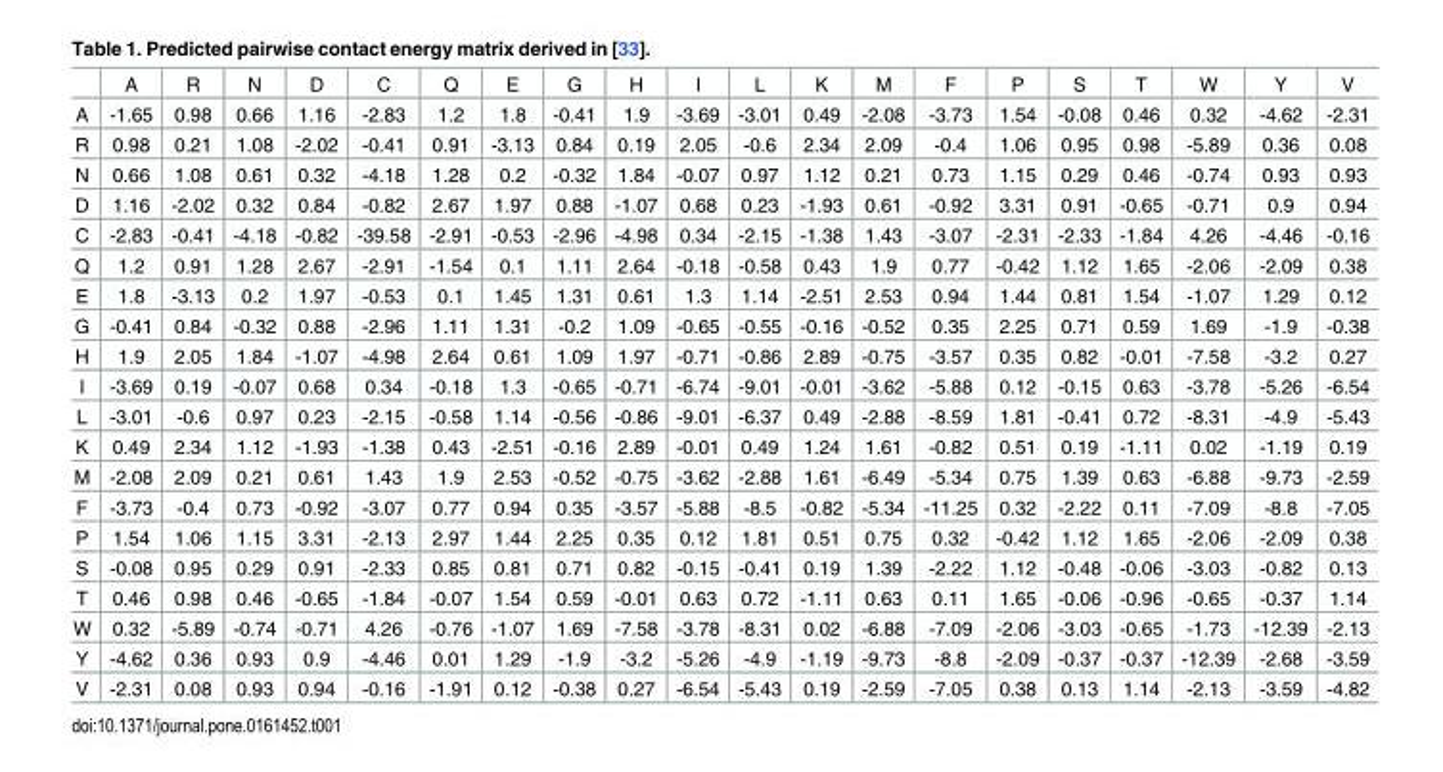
<table><thead><tr><td></td><td>A</td><td>R</td><td>N</td><td>D</td><td>C</td><td>Q</td><td>E</td><td>G</td><td>H</td><td>I</td><td>L</td><td>K</td><td>M</td><td>F</td><td>P</td><td>S</td><td>T</td><td>W</td><td>Y</td><td>V</td></tr></thead><tbody><tr><td>A</td><td>-1.65</td><td>0.98</td><td>0.66</td><td>1.16</td><td>-2.83</td><td>1.2</td><td>1.8</td><td>-0.41</td><td>1.9</td><td>-3.69</td><td>-3.01</td><td>0.49</td><td>-2.08</td><td>-3.73</td><td>1.54</td><td>-0.08</td><td>0.46</td><td>0.32</td><td>-4.62</td><td>-2.31</td></tr><tr><td>R</td><td>0.98</td><td>0.21</td><td>1.08</td><td>-2.02</td><td>-0.41</td><td>0.91</td><td>-3.13</td><td>0.84</td><td>0.19</td><td>2.05</td><td>-0.6</td><td>2.34</td><td>2.09</td><td>-0.4</td><td>1.06</td><td>0.95</td><td>0.98</td><td>-5.89</td><td>0.36</td><td>0.08</td></tr><tr><td>N</td><td>0.66</td><td>1.08</td><td>0.61</td><td>0.32</td><td>-4.18</td><td>1.28</td><td>0.2</td><td>-0.32</td><td>1.84</td><td>-0.07</td><td>0.97</td><td>1.12</td><td>0.21</td><td>0.73</td><td>1.15</td><td>0.29</td><td>0.46</td><td>-0.74</td><td>0.93</td><td>0.93</td></tr><tr><td>D</td><td>1.16</td><td>-2.02</td><td>0.32</td><td>0.84</td><td>-0.82</td><td>2.67</td><td>1.97</td><td>0.88</td><td>-1.07</td><td>0.68</td><td>0.23</td><td>-1.93</td><td>0.61</td><td>-0.92</td><td>3.31</td><td>0.91</td><td>-0.65</td><td>-0.71</td><td>0.9</td><td>0.94</td></tr><tr><td>C</td><td>-2.83</td><td>-0.41</td><td>-4.18</td><td>-0.82</td><td>-39.58</td><td>-2.91</td><td>-0.53</td><td>-2.96</td><td>-4.98</td><td>0.34</td><td>-2.15</td><td>-1.38</td><td>1.43</td><td>-3.07</td><td>-2.31</td><td>-2.33</td><td>-1.84</td><td>4.26</td><td>-4.46</td><td>-0.16</td></tr><tr><td>Q</td><td>1.2</td><td>0.91</td><td>1.28</td><td>2.67</td><td>-2.91</td><td>-1.54</td><td>0.1</td><td>1.11</td><td>2.64</td><td>-0.18</td><td>-0.58</td><td>0.43</td><td>1.9</td><td>0.77</td><td>-0.42</td><td>1.12</td><td>1.65</td><td>-2.06</td><td>-2.09</td><td>0.38</td></tr><tr><td>E</td><td>1.8</td><td>-3.13</td><td>0.2</td><td>1.97</td><td>-0.53</td><td>0.1</td><td>1.45</td><td>1.31</td><td>0.61</td><td>1.3</td><td>1.14</td><td>-2.51</td><td>2.53</td><td>0.94</td><td>1.44</td><td>0.81</td><td>1.54</td><td>-1.07</td><td>1.29</td><td>0.12</td></tr><tr><td>G</td><td>-0.41</td><td>0.84</td><td>-0.32</td><td>0.88</td><td>-2.96</td><td>1.11</td><td>1.31</td><td>-0.2</td><td>1.09</td><td>-0.65</td><td>-0.55</td><td>-0.16</td><td>-0.52</td><td>0.35</td><td>2.25</td><td>0.71</td><td>0.59</td><td>1.69</td><td>-1.9</td><td>-0.38</td></tr><tr><td>H</td><td>1.9</td><td>2.05</td><td>1.84</td><td>-1.07</td><td>-4.98</td><td>2.64</td><td>0.61</td><td>1.09</td><td>1.97</td><td>-0.71</td><td>-0.86</td><td>2.89</td><td>-0.75</td><td>-3.57</td><td>0.35</td><td>0.82</td><td>-0.01</td><td>-7.58</td><td>-3.2</td><td>0.27</td></tr><tr><td>I</td><td>-3.69</td><td>0.19</td><td>-0.07</td><td>0.68</td><td>0.34</td><td>-0.18</td><td>1.3</td><td>-0.65</td><td>-0.71</td><td>-6.74</td><td>-9.01</td><td>-0.01</td><td>-3.62</td><td>-5.88</td><td>0.12</td><td>-0.15</td><td>0.63</td><td>-3.78</td><td>-5.26</td><td>-6.54</td></tr><tr><td>L</td><td>-3.01</td><td>-0.6</td><td>0.97</td><td>0.23</td><td>-2.15</td><td>-0.58</td><td>1.14</td><td>-0.56</td><td>-0.86</td><td>-9.01</td><td>-6.37</td><td>0.49</td><td>-2.88</td><td>-8.59</td><td>1.81</td><td>-0.41</td><td>0.72</td><td>-8.31</td><td>-4.9</td><td>-5.43</td></tr><tr><td>K</td><td>0.49</td><td>2.34</td><td>1.12</td><td>-1.93</td><td>-1.38</td><td>0.43</td><td>-2.51</td><td>-0.16</td><td>2.89</td><td>-0.01</td><td>0.49</td><td>1.24</td><td>1.61</td><td>-0.82</td><td>0.51</td><td>0.19</td><td>-1.11</td><td>0.02</td><td>-1.19</td><td>0.19</td></tr><tr><td>M</td><td>-2.08</td><td>2.09</td><td>0.21</td><td>0.61</td><td>1.43</td><td>1.9</td><td>2.53</td><td>-0.52</td><td>-0.75</td><td>-3.62</td><td>-2.88</td><td>1.61</td><td>-6.49</td><td>-5.34</td><td>0.75</td><td>1.39</td><td>0.63</td><td>-6.88</td><td>-9.73</td><td>-2.59</td></tr><tr><td>F</td><td>-3.73</td><td>-0.4</td><td>0.73</td><td>-0.92</td><td>-3.07</td><td>0.77</td><td>0.94</td><td>0.35</td><td>-3.57</td><td>-5.88</td><td>-8.5</td><td>-0.82</td><td>-5.34</td><td>-11.25</td><td>0.32</td><td>-2.22</td><td>0.11</td><td>-7.09</td><td>-8.8</td><td>-7.05</td></tr><tr><td>P</td><td>1.54</td><td>1.06</td><td>1.15</td><td>3.31</td><td>-2.13</td><td>2.97</td><td>1.44</td><td>2.25</td><td>0.35</td><td>0.12</td><td>1.81</td><td>0.51</td><td>0.75</td><td>0.32</td><td>-0.42</td><td>1.12</td><td>1.65</td><td>-2.06</td><td>-2.09</td><td>0.38</td></tr><tr><td>S</td><td>-0.08</td><td>0.95</td><td>0.29</td><td>0.91</td><td>-2.33</td><td>0.85</td><td>0.81</td><td>0.71</td><td>0.82</td><td>-0.15</td><td>-0.41</td><td>0.19</td><td>1.39</td><td>-2.22</td><td>1.12</td><td>-0.48</td><td>-0.06</td><td>-3.03</td><td>-0.82</td><td>0.13</td></tr><tr><td>T</td><td>0.46</td><td>0.98</td><td>0.46</td><td>-0.65</td><td>-1.84</td><td>-0.07</td><td>1.54</td><td>0.59</td><td>-0.01</td><td>0.63</td><td>0.72</td><td>-1.11</td><td>0.63</td><td>0.11</td><td>1.65</td><td>-0.06</td><td>-0.96</td><td>-0.65</td><td>-0.37</td><td>1.14</td></tr><tr><td>W</td><td>0.32</td><td>-5.89</td><td>-0.74</td><td>-0.71</td><td>4.26</td><td>-0.76</td><td>-1.07</td><td>1.69</td><td>-7.58</td><td>-3.78</td><td>-8.31</td><td>0.02</td><td>-6.88</td><td>-7.09</td><td>-2.06</td><td>-3.03</td><td>-0.65</td><td>-1.73</td><td>-12.39</td><td>-2.13</td></tr><tr><td>Y</td><td>-4.62</td><td>0.36</td><td>0.93</td><td>0.9</td><td>-4.46</td><td>0.01</td><td>1.29</td><td>-1.9</td><td>-3.2</td><td>-5.26</td><td>-4.9</td><td>-1.19</td><td>-9.73</td><td>-8.8</td><td>-2.09</td><td>-0.37</td><td>-0.37</td><td>-12.39</td><td>-2.68</td><td>-3.59</td></tr><tr><td>V</td><td>-2.31</td><td>0.08</td><td>0.93</td><td>0.94</td><td>-0.16</td><td>-1.91</td><td>0.12</td><td>-0.38</td><td>0.27</td><td>-6.54</td><td>-5.43</td><td>0.19</td><td>-2.59</td><td>-7.05</td><td>0.38</td><td>0.13</td><td>1.14</td><td>-2.13</td><td>-3.59</td><td>-4.82</td></tr></tbody></table>